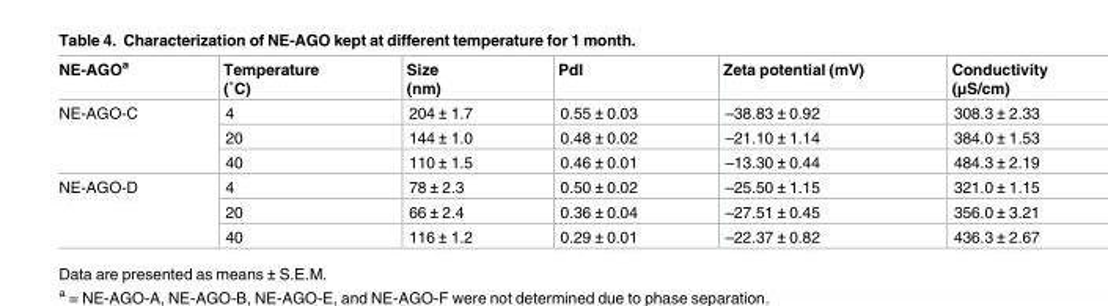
<table><thead><tr><td>NE-AGO<sup>a</sup></td><td>Temperature (˚C)</td><td>Size (nm)</td><td>PdI</td><td>Zeta potential (mV)</td><td>Conductivity (μS/cm)</td></tr></thead><tbody><tr><td rowspan="3">NE-AGO-C</td><td>4</td><td>204 ± 1.7</td><td>0.55 ± 0.03</td><td>–38.83 ± 0.92</td><td>308.3 ± 2.33</td></tr><tr><td>20</td><td>144 ± 1.0</td><td>0.48 ± 0.02</td><td>–21.10 ± 1.14</td><td>384.0 ± 1.53</td></tr><tr><td>40</td><td>110 ± 1.5</td><td>0.46 ± 0.01</td><td>–13.30 ± 0.44</td><td>484.3 ± 2.19</td></tr><tr><td rowspan="3">NE-AGO-D</td><td>4</td><td>78 ± 2.3</td><td>0.50 ± 0.02</td><td>–25.50 ± 1.15</td><td>321.0 ± 1.15</td></tr><tr><td>20</td><td>66 ± 2.4</td><td>0.36 ± 0.04</td><td>–27.51 ± 0.45</td><td>356.0 ± 3.21</td></tr><tr><td>40</td><td>116 ± 1.2</td><td>0.29 ± 0.01</td><td>–22.37 ± 0.82</td><td>436.3 ± 2.67</td></tr></tbody></table>